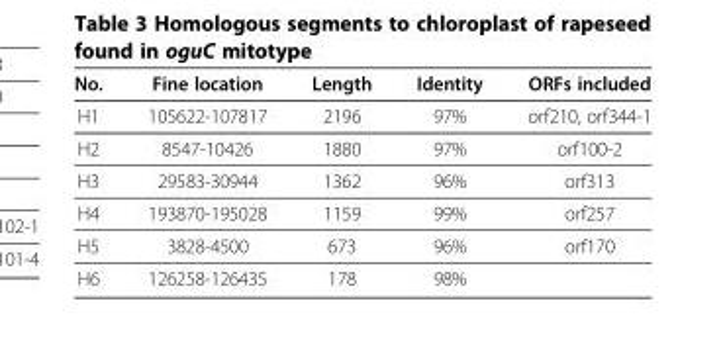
<table><thead><tr><td>No.</td><td>Fine location</td><td>Length</td><td>Identity</td><td>ORFs included</td></tr></thead><tbody><tr><td>H1</td><td>105622-107817</td><td>2196</td><td>97%</td><td>orf210, orf344-1</td></tr><tr><td>H2</td><td>8547-10426</td><td>1880</td><td>97%</td><td>orf100-2</td></tr><tr><td>H3</td><td>29583-30944</td><td>1362</td><td>96%</td><td>orf313</td></tr><tr><td>H4</td><td>193870-195028</td><td>1159</td><td>99%</td><td>orf257</td></tr><tr><td>H5</td><td>3828-4500</td><td>673</td><td>96%</td><td>orf170</td></tr><tr><td>H6</td><td>126258-126435</td><td>178</td><td>98%</td><td></td></tr></tbody></table>